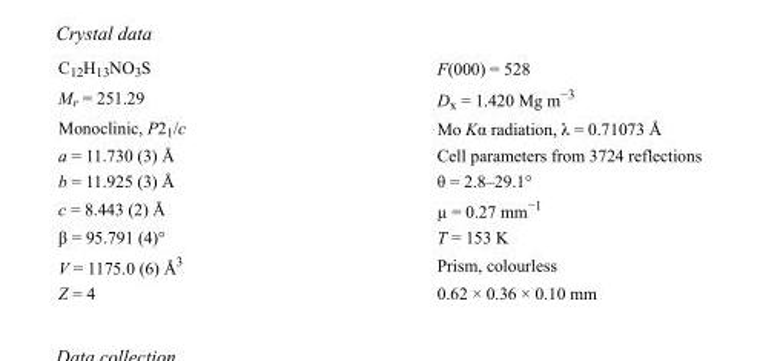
<table><tbody><tr><td>C<sub>12</sub>H<sub>13</sub>NO<sub>3</sub>S</td><td>F(000) = 528</td></tr><tr><td>M<sub>r</sub> = 251.29</td><td>D<sub>x</sub> = 1.420 Mg m<sup>−3</sup></td></tr><tr><td>Monoclinic, P2<sub>1</sub>/c</td><td>Mo Kα radiation, λ = 0.71073 Å</td></tr><tr><td>a = 11.730 (3) Å</td><td>Cell parameters from 3724 reflections</td></tr><tr><td>b = 11.925 (3) Å</td><td>θ = 2.8–29.1°</td></tr><tr><td>c = 8.443 (2) Å</td><td>µ = 0.27 mm<sup>−1</sup></td></tr><tr><td>β = 95.791 (4)°</td><td>T = 153 K</td></tr><tr><td>V = 1175.0 (6) Å<sup>3</sup></td><td>Prism, colourless</td></tr><tr><td>Z = 4</td><td>0.62 × 0.36 × 0.10 mm</td></tr></tbody></table>